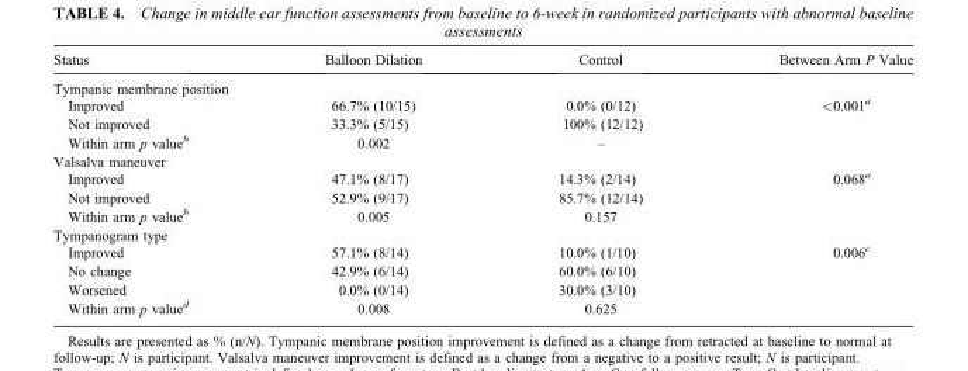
<table><thead><tr><td>Status</td><td>Balloon Dilation</td><td>Control</td><td>Between Arm P Value</td></tr></thead><tbody><tr><td colspan="4">Tympanic membrane position</td></tr><tr><td>Improved</td><td>66.7% (10/15)</td><td>0.0% (0/12)</td><td>&lt;0.001<sup>a</sup></td></tr><tr><td>Not improved</td><td>33.3% (5/15)</td><td>100% (12/12)</td><td></td></tr><tr><td>Within arm p value<sup>b</sup></td><td>0.002</td><td>–</td><td></td></tr><tr><td colspan="4">Valsalva maneuver</td></tr><tr><td>Improved</td><td>47.1% (8/17)</td><td>14.3% (2/14)</td><td>0.068<sup>a</sup></td></tr><tr><td>Not improved</td><td>52.9% (9/17)</td><td>85.7% (12/14)</td><td></td></tr><tr><td>Within arm p value<sup>b</sup></td><td>0.005</td><td>0.157</td><td></td></tr><tr><td colspan="4">Tympanogram type</td></tr><tr><td>Improved</td><td>57.1% (8/14)</td><td>10.0% (1/10)</td><td>0.006<sup>c</sup></td></tr><tr><td>No change</td><td>42.9% (6/14)</td><td>60.0% (6/10)</td><td></td></tr><tr><td>Worsened</td><td>0.0% (0/14)</td><td>30.0% (3/10)</td><td></td></tr><tr><td>Within arm p value<sup>d</sup></td><td>0.008</td><td>0.625</td><td></td></tr></tbody></table>